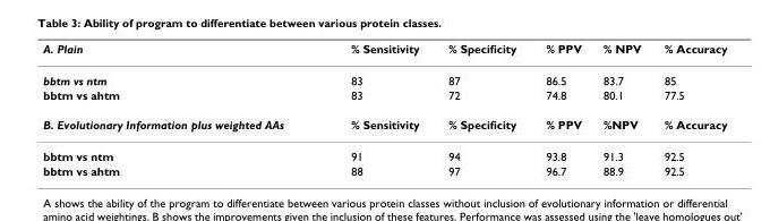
<table><thead><tr><td>A. Plain</td><td>% Sensitivity</td><td>% Specificity</td><td>% PPV</td><td>% NPV</td><td>% Accuracy</td></tr></thead><tbody><tr><td>bbtm vs ntm</td><td>83</td><td>87</td><td>86.5</td><td>83.7</td><td>85</td></tr><tr><td>bbtm vs ahtm</td><td>83</td><td>72</td><td>74.8</td><td>80.1</td><td>77.5</td></tr><tr><td>B. Evolutionary Information plus weighted AAs</td><td>% Sensitivity</td><td>% Specificity</td><td>% PPV</td><td>%NPV</td><td>% Accuracy</td></tr><tr><td>bbtm vs ntm</td><td>91</td><td>94</td><td>93.8</td><td>91.3</td><td>92.5</td></tr><tr><td>bbtm vs ahtm</td><td>88</td><td>97</td><td>96.7</td><td>88.9</td><td>92.5</td></tr></tbody></table>